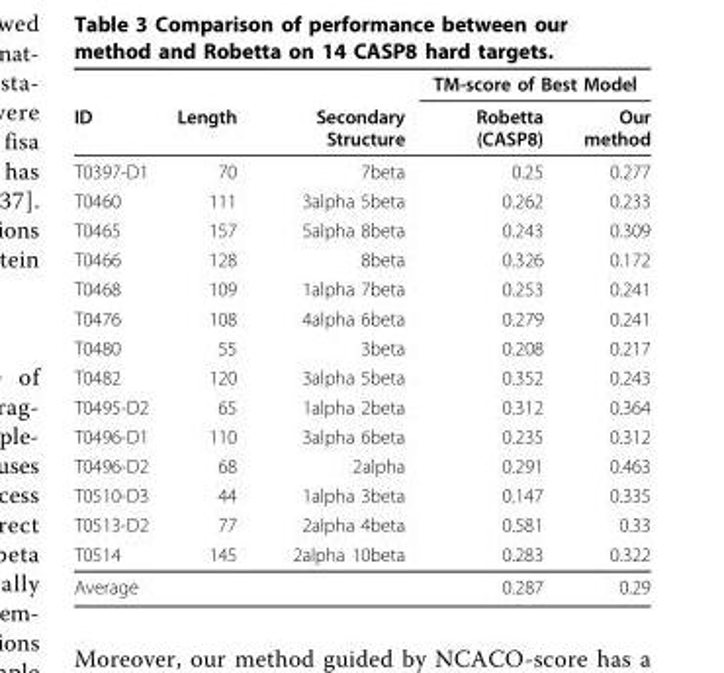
<table><thead><tr><td rowspan="2">ID</td><td rowspan="2">Length</td><td rowspan="2">Secondary Structure</td><td colspan="2">TM-score of Best Model</td></tr><tr><td>Robetta (CASP8)</td><td>Our method</td></tr></thead><tbody><tr><td>T0397-D1</td><td>70</td><td>7beta</td><td>0.25</td><td>0.277</td></tr><tr><td>T0460</td><td>111</td><td>3alpha 5beta</td><td>0.262</td><td>0.233</td></tr><tr><td>T0465</td><td>157</td><td>5alpha 8beta</td><td>0.243</td><td>0.309</td></tr><tr><td>T0466</td><td>128</td><td>8beta</td><td>0.326</td><td>0.172</td></tr><tr><td>T0468</td><td>109</td><td>1alpha 7beta</td><td>0.253</td><td>0.241</td></tr><tr><td>T0476</td><td>108</td><td>4alpha 6beta</td><td>0.279</td><td>0.241</td></tr><tr><td>T0480</td><td>55</td><td>3beta</td><td>0.208</td><td>0.217</td></tr><tr><td>T0482</td><td>120</td><td>3alpha 5beta</td><td>0.352</td><td>0.243</td></tr><tr><td>T0495-D2</td><td>65</td><td>1alpha 2beta</td><td>0.312</td><td>0.364</td></tr><tr><td>T0496-D1</td><td>110</td><td>3alpha 6beta</td><td>0.235</td><td>0.312</td></tr><tr><td>T0496-D2</td><td>68</td><td>2alpha</td><td>0.291</td><td>0.463</td></tr><tr><td>T0510-D3</td><td>44</td><td>1alpha 3beta</td><td>0.147</td><td>0.335</td></tr><tr><td>T0513-D2</td><td>77</td><td>2alpha 4beta</td><td>0.581</td><td>0.33</td></tr><tr><td>T0514</td><td>145</td><td>2alpha 10beta</td><td>0.283</td><td>0.322</td></tr><tr><td>Average</td><td></td><td></td><td>0.287</td><td>0.29</td></tr></tbody></table>